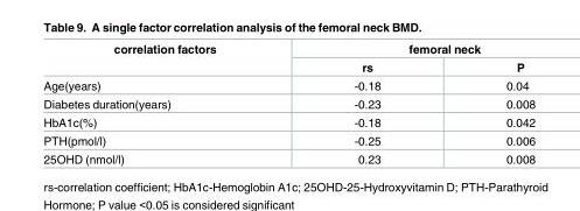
<table><thead><tr><td rowspan="2">correlation factors</td><td colspan="2">femoral neck</td></tr><tr><td>rs</td><td>P</td></tr></thead><tbody><tr><td>Age(years)</td><td>-0.18</td><td>0.04</td></tr><tr><td>Diabetes duration(years)</td><td>-0.23</td><td>0.008</td></tr><tr><td>HbA1c(%)</td><td>-0.18</td><td>0.042</td></tr><tr><td>PTH(pmol/l)</td><td>-0.25</td><td>0.006</td></tr><tr><td>25OHD (nmol/l)</td><td>0.23</td><td>0.008</td></tr></tbody></table>